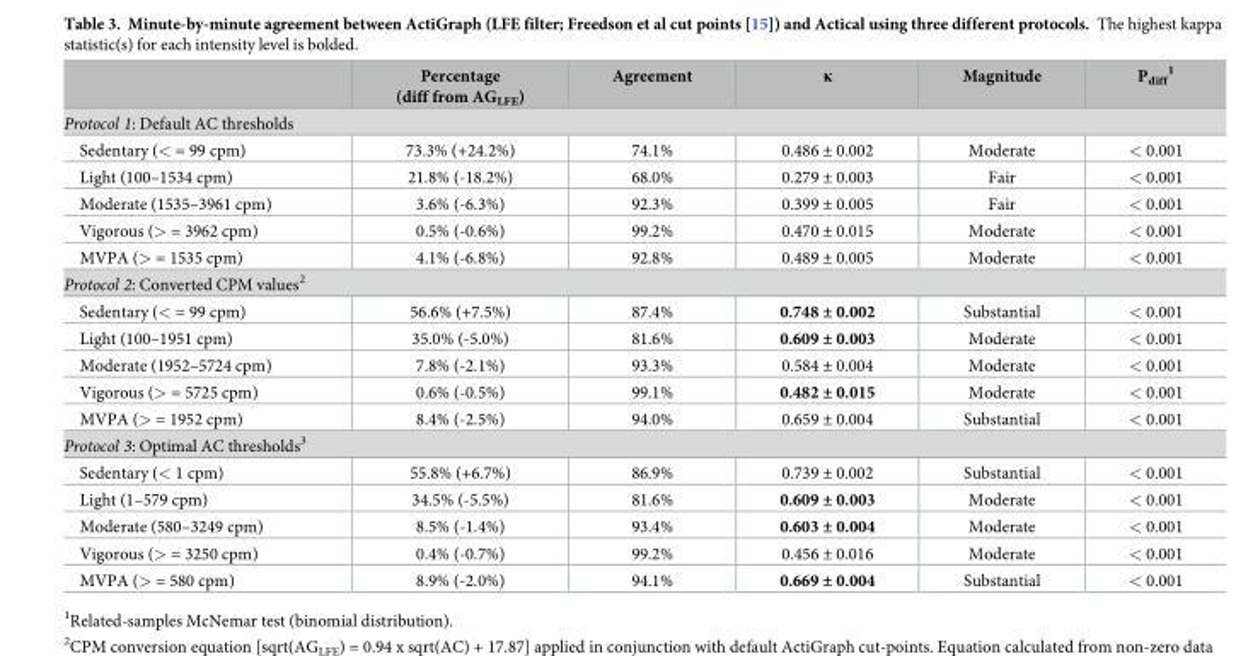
<table><thead><tr><td></td><td>Percentage (diff from AG<sub>LFE</sub>)</td><td>Agreement</td><td>κ</td><td>Magnitude</td><td>P<sub>diff</sub> <sup>1</sup></td></tr></thead><tbody><tr><td colspan="6">Protocol 1: Default AC thresholds</td></tr><tr><td>Sedentary (&lt; = 99 cpm)</td><td>73.3% (+24.2%)</td><td>74.1%</td><td>0.486 ± 0.002</td><td>Moderate</td><td>&lt; 0.001</td></tr><tr><td>Light (100–1534 cpm)</td><td>21.8% (-18.2%)</td><td>68.0%</td><td>0.279 ± 0.003</td><td>Fair</td><td>&lt; 0.001</td></tr><tr><td>Moderate (1535–3961 cpm)</td><td>3.6% (-6.3%)</td><td>92.3%</td><td>0.399 ± 0.005</td><td>Fair</td><td>&lt; 0.001</td></tr><tr><td>Vigorous (&gt; = 3962 cpm)</td><td>0.5% (-0.6%)</td><td>99.2%</td><td>0.470 ± 0.015</td><td>Moderate</td><td>&lt; 0.001</td></tr><tr><td>MVPA (&gt; = 1535 cpm)</td><td>4.1% (-6.8%)</td><td>92.8%</td><td>0.489 ± 0.005</td><td>Moderate</td><td>&lt; 0.001</td></tr><tr><td colspan="6">Protocol 2: Converted CPM values<sup>2</sup></td></tr><tr><td>Sedentary (&lt; = 99 cpm)</td><td>56.6% (+7.5%)</td><td>87.4%</td><td>0.748 ± 0.002</td><td>Substantial</td><td>&lt; 0.001</td></tr><tr><td>Light (100–1951 cpm)</td><td>35.0% (-5.0%)</td><td>81.6%</td><td>0.609 ± 0.003</td><td>Moderate</td><td>&lt; 0.001</td></tr><tr><td>Moderate (1952–5724 cpm)</td><td>7.8% (-2.1%)</td><td>93.3%</td><td>0.584 ± 0.004</td><td>Moderate</td><td>&lt; 0.001</td></tr><tr><td>Vigorous (&gt; = 5725 cpm)</td><td>0.6% (-0.5%)</td><td>99.1%</td><td>0.482 ± 0.015</td><td>Moderate</td><td>&lt; 0.001</td></tr><tr><td>MVPA (&gt; = 1952 cpm)</td><td>8.4% (-2.5%)</td><td>94.0%</td><td>0.659 ± 0.004</td><td>Substantial</td><td>&lt; 0.001</td></tr><tr><td colspan="6">Protocol 3: Optimal AC thresholds<sup>3</sup></td></tr><tr><td>Sedentary (&lt; 1 cpm)</td><td>55.8% (+6.7%)</td><td>86.9%</td><td>0.739 ± 0.002</td><td>Substantial</td><td>&lt; 0.001</td></tr><tr><td>Light (1–579 cpm)</td><td>34.5% (-5.5%)</td><td>81.6%</td><td>0.609 ± 0.003</td><td>Moderate</td><td>&lt; 0.001</td></tr><tr><td>Moderate (580–3249 cpm)</td><td>8.5% (-1.4%)</td><td>93.4%</td><td>0.603 ± 0.004</td><td>Moderate</td><td>&lt; 0.001</td></tr><tr><td>Vigorous (&gt; = 3250 cpm)</td><td>0.4% (-0.7%)</td><td>99.2%</td><td>0.456 ± 0.016</td><td>Moderate</td><td>&lt; 0.001</td></tr><tr><td>MVPA (&gt; = 580 cpm)</td><td>8.9% (-2.0%)</td><td>94.1%</td><td>0.669 ± 0.004</td><td>Substantial</td><td>&lt; 0.001</td></tr></tbody></table>